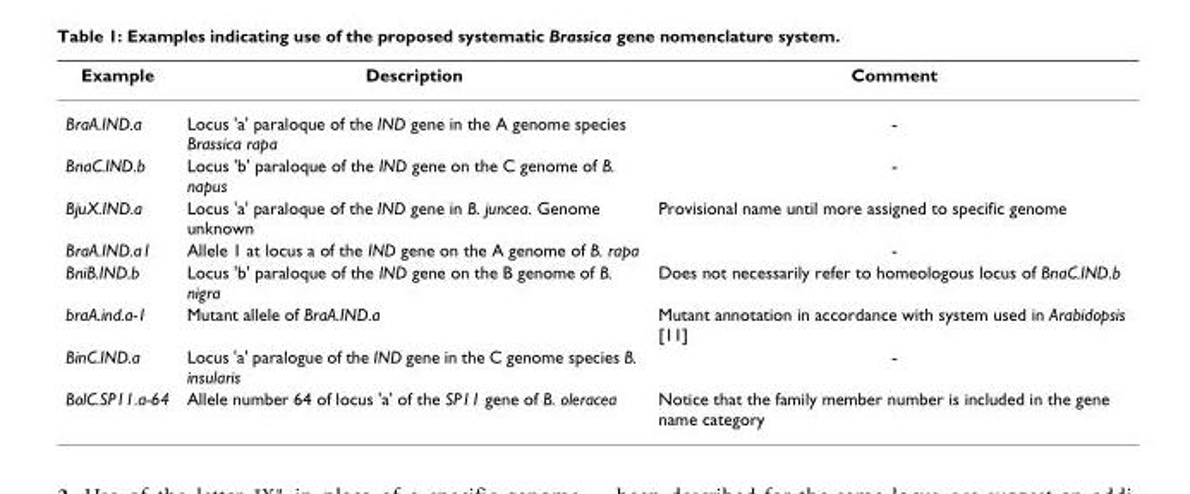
<table><thead><tr><td>Example</td><td>Description</td><td>Comment</td></tr></thead><tbody><tr><td>BraA.IND.a</td><td>Locus &#x27;a&#x27; paraloque of the IND gene in the A genome species Brassica rapa</td><td>-</td></tr><tr><td>BnaC.IND.b</td><td>Locus &#x27;b&#x27; paraloque of the IND gene on the C genome of B. napus</td><td>-</td></tr><tr><td>BjuX.IND.a</td><td>Locus &#x27;a&#x27; paraloque of the IND gene in B. juncea. Genome unknown</td><td>Provisional name until more assigned to specific genome</td></tr><tr><td>BraA.IND.a1</td><td>Allele 1 at locus a of the IND gene on the A genome of B. rapa</td><td>-</td></tr><tr><td>BniB.IND.b</td><td>Locus &#x27;b&#x27; paraloque of the IND gene on the B genome of B. nigra</td><td>Does not necessarily refer to homeologous locus of BnaC.IND.b</td></tr><tr><td>braA.ind.a-1</td><td>Mutant allele of BraA.IND.a</td><td>Mutant annotation in accordance with system used in Arabidopsis [11]</td></tr><tr><td>BinC.IND.a</td><td>Locus &#x27;a&#x27; paralogue of the IND gene in the C genome species B. insularis</td><td>-</td></tr><tr><td>BolC.SP11.a-64</td><td>Allele number 64 of locus &#x27;a&#x27; of the SP11 gene of B. oleracea</td><td>Notice that the family member number is included in the gene name category</td></tr></tbody></table>